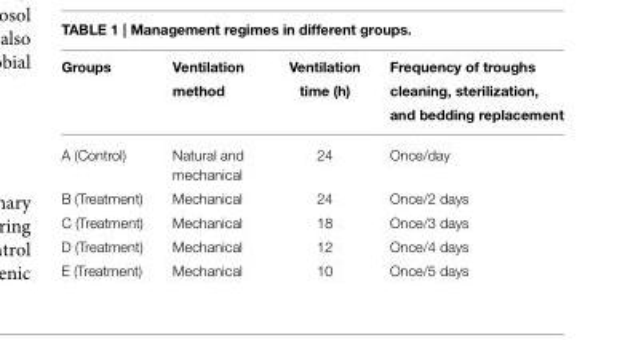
<table><thead><tr><td>Groups</td><td>Ventilation method</td><td>Ventilation time (h)</td><td>Frequency of troughs cleaning, sterilization, and bedding replacement</td></tr></thead><tbody><tr><td>A (Control)</td><td>Natural and mechanical</td><td>24</td><td>Once/day</td></tr><tr><td>B (Treatment)</td><td>Mechanical</td><td>24</td><td>Once/2 days</td></tr><tr><td>C (Treatment)</td><td>Mechanical</td><td>18</td><td>Once/3 days</td></tr><tr><td>D (Treatment)</td><td>Mechanical</td><td>12</td><td>Once/4 days</td></tr><tr><td>E (Treatment)</td><td>Mechanical</td><td>10</td><td>Once/5 days</td></tr></tbody></table>